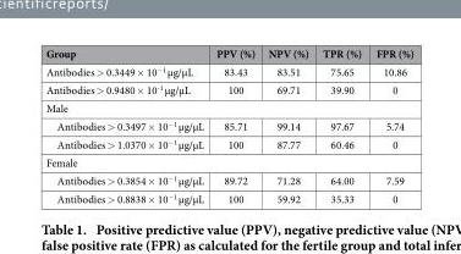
<table><thead><tr><td>Group</td><td>PPV (%)</td><td>NPV (%)</td><td>TPR (%)</td><td>FPR (%)</td></tr></thead><tbody><tr><td>Antibodies &gt; 0.3449 × 10<sup>−1</sup> μg/μL</td><td>83.43</td><td>83.51</td><td>75.65</td><td>10.86</td></tr><tr><td>Antibodies &gt; 0.9480 × 10<sup>-1</sup> μg/μL</td><td>100</td><td>69.71</td><td>39.90</td><td>0</td></tr><tr><td colspan="5">Male</td></tr><tr><td>Antibodies &gt; 0.3497 × 10<sup>−1</sup> μg/μL</td><td>85.71</td><td>99.14</td><td>97.67</td><td>5.74</td></tr><tr><td>Antibodies &gt; 1.0370 × 10<sup>−1</sup> μg/μL</td><td>100</td><td>87.77</td><td>60.46</td><td>0</td></tr><tr><td colspan="5">Female</td></tr><tr><td>Antibodies &gt; 0.3854 × 10<sup>−1</sup> μg/μL</td><td>89.72</td><td>71.28</td><td>64.00</td><td>7.59</td></tr><tr><td>Antibodies &gt; 0.8838 × 10<sup>−1</sup> μg/μL</td><td>100</td><td>59.92</td><td>35.33</td><td>0</td></tr></tbody></table>